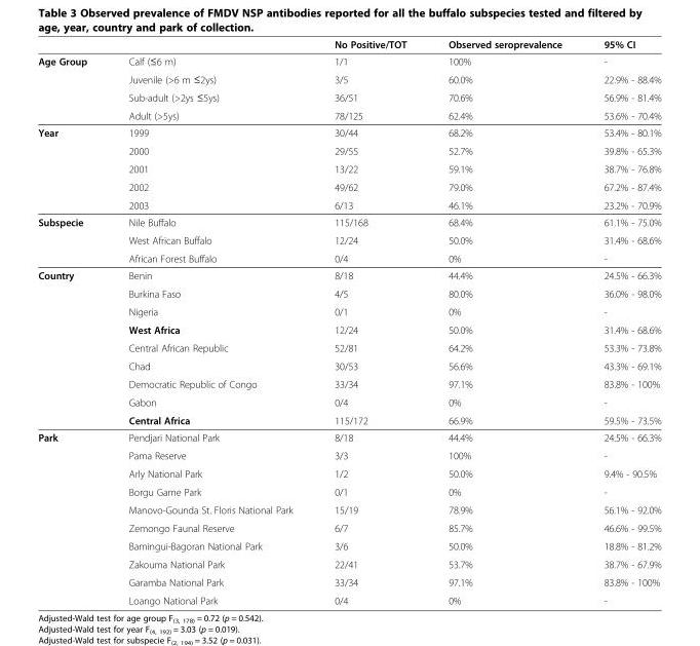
<table><thead><tr><td></td><td></td><td>No Positive/TOT</td><td>Observed seroprevalence</td><td>95% CI</td></tr></thead><tbody><tr><td rowspan="4">Age Group</td><td>Calf (≤6 m)</td><td>1/1</td><td>100%</td><td>-</td></tr><tr><td>Juvenile (&gt;6 m ≤2ys)</td><td>3/5</td><td>60.0%</td><td>22.9% - 88.4%</td></tr><tr><td>Sub-adult (&gt;2ys ≤5ys)</td><td>36/51</td><td>70.6%</td><td>56.9% - 81.4%</td></tr><tr><td>Adult (&gt;5ys)</td><td>78/125</td><td>62.4%</td><td>53.6% - 70.4%</td></tr><tr><td rowspan="5">Year</td><td>1999</td><td>30/44</td><td>68.2%</td><td>53.4% - 80.1%</td></tr><tr><td>2000</td><td>29/55</td><td>52.7%</td><td>39.8% - 65.3%</td></tr><tr><td>2001</td><td>13/22</td><td>59.1%</td><td>38.7% - 76.8%</td></tr><tr><td>2002</td><td>49/62</td><td>79.0%</td><td>67.2% - 87.4%</td></tr><tr><td>2003</td><td>6/13</td><td>46.1%</td><td>23.2% - 70.9%</td></tr><tr><td rowspan="3">Subspecie</td><td>Nile Buffalo</td><td>115/168</td><td>68.4%</td><td>61.1% - 75.0%</td></tr><tr><td>West African Buffalo</td><td>12/24</td><td>50.0%</td><td>31.4% - 68.6%</td></tr><tr><td>African Forest Buffalo</td><td>0/4</td><td>0%</td><td>-</td></tr><tr><td rowspan="9">Country</td><td>Benin</td><td>8/18</td><td>44.4%</td><td>24.5% - 66.3%</td></tr><tr><td>Burkina Faso</td><td>4/5</td><td>80.0%</td><td>36.0% - 98.0%</td></tr><tr><td>Nigeria</td><td>0/1</td><td>0%</td><td>-</td></tr><tr><td>West Africa</td><td>12/24</td><td>50.0%</td><td>31.4% - 68.6%</td></tr><tr><td>Central African Republic</td><td>52/81</td><td>64.2%</td><td>53.3% - 73.8%</td></tr><tr><td>Chad</td><td>30/53</td><td>56.6%</td><td>43.3% - 69.1%</td></tr><tr><td>Democratic Republic of Congo</td><td>33/34</td><td>97.1%</td><td>83.8% - 100%</td></tr><tr><td>Gabon</td><td>0/4</td><td>0%</td><td>-</td></tr><tr><td>Central Africa</td><td>115/172</td><td>66.9%</td><td>59.5% - 73.5%</td></tr><tr><td rowspan="10">Park</td><td>Pendjari National Park</td><td>8/18</td><td>44.4%</td><td>24.5% - 66.3%</td></tr><tr><td>Pama Reserve</td><td>3/3</td><td>100%</td><td>-</td></tr><tr><td>Arly National Park</td><td>1/2</td><td>50.0%</td><td>9.4% - 90.5%</td></tr><tr><td>Borgu Game Park</td><td>0/1</td><td>0%</td><td>-</td></tr><tr><td>Manovo-Gounda St. Floris National Park</td><td>15/19</td><td>78.9%</td><td>56.1% - 92.0%</td></tr><tr><td>Zemongo Faunal Reserve</td><td>6/7</td><td>85.7%</td><td>46.6% - 99.5%</td></tr><tr><td>Bamingui-Bagoran National Park</td><td>3/6</td><td>50.0%</td><td>18.8% - 81.2%</td></tr><tr><td>Zakouma National Park</td><td>22/41</td><td>53.7%</td><td>38.7% - 67.9%</td></tr><tr><td>Garamba National Park</td><td>33/34</td><td>97.1%</td><td>83.8% - 100%</td></tr><tr><td>Loango National Park</td><td>0/4</td><td>0%</td><td>-</td></tr></tbody></table>